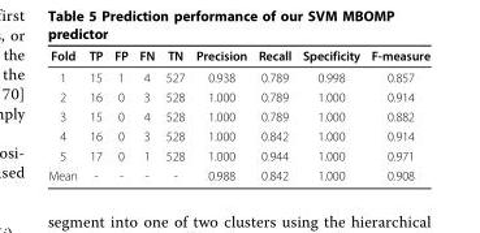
<table><thead><tr><td>Fold</td><td>TP</td><td>FP</td><td>FN</td><td>TN</td><td>Precision</td><td>Recall</td><td>Specificity</td><td>F-measure</td></tr></thead><tbody><tr><td>1</td><td>15</td><td>1</td><td>4</td><td>527</td><td>0.938</td><td>0.789</td><td>0.998</td><td>0.857</td></tr><tr><td>2</td><td>16</td><td>0</td><td>3</td><td>528</td><td>1.000</td><td>0.789</td><td>1.000</td><td>0.914</td></tr><tr><td>3</td><td>15</td><td>0</td><td>4</td><td>528</td><td>1.000</td><td>0.789</td><td>1.000</td><td>0.882</td></tr><tr><td>4</td><td>16</td><td>0</td><td>3</td><td>528</td><td>1.000</td><td>0.842</td><td>1.000</td><td>0.914</td></tr><tr><td>5</td><td>17</td><td>0</td><td>1</td><td>528</td><td>1.000</td><td>0.944</td><td>1.000</td><td>0.971</td></tr><tr><td>Mean</td><td>-</td><td>-</td><td>-</td><td>-</td><td>0.988</td><td>0.842</td><td>1.000</td><td>0.908</td></tr></tbody></table>